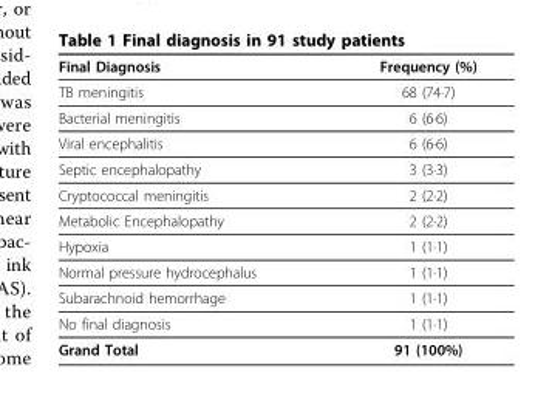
<table><thead><tr><td>Final Diagnosis</td><td>Frequency (%)</td></tr></thead><tbody><tr><td>TB meningitis</td><td>68 (74·7)</td></tr><tr><td>Bacterial meningitis</td><td>6 (6·6)</td></tr><tr><td>Viral encephalitis</td><td>6 (6·6)</td></tr><tr><td>Septic encephalopathy</td><td>3 (3·3)</td></tr><tr><td>Cryptococcal meningitis</td><td>2 (2·2)</td></tr><tr><td>Metabolic Encephalopathy</td><td>2 (2·2)</td></tr><tr><td>Hypoxia</td><td>1 (1·1)</td></tr><tr><td>Normal pressure hydrocephalus</td><td>1 (1·1)</td></tr><tr><td>Subarachnoid hemorrhage</td><td>1 (1·1)</td></tr><tr><td>No final diagnosis</td><td>1 (1·1)</td></tr><tr><td>Grand Total</td><td>91 (100%)</td></tr></tbody></table>